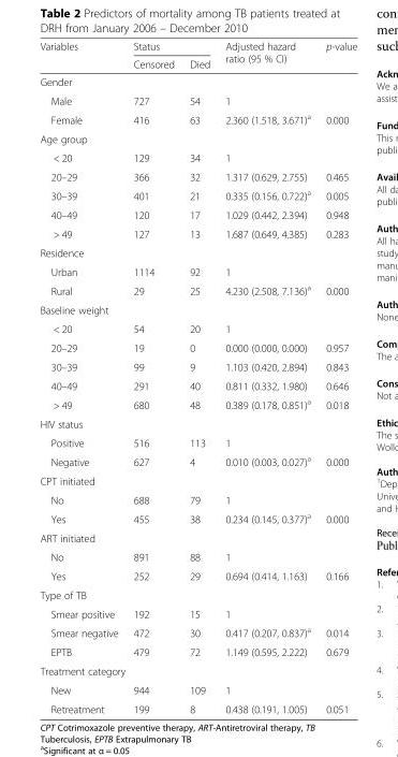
<table><thead><tr><td rowspan="2">Variables</td><td colspan="2">Status</td><td rowspan="2">Adjusted hazard ratio (95 % CI)</td><td rowspan="2">p-value</td></tr><tr><td>Censored</td><td>Died</td></tr></thead><tbody><tr><td colspan="5">Gender</td></tr><tr><td>Male</td><td>727</td><td>54</td><td>1</td><td></td></tr><tr><td>Female</td><td>416</td><td>63</td><td>2.360 (1.518, 3.671)<sup>a</sup></td><td>0.000</td></tr><tr><td colspan="5">Age group</td></tr><tr><td>&lt; 20</td><td>129</td><td>34</td><td>1</td><td></td></tr><tr><td>20–29</td><td>366</td><td>32</td><td>1.317 (0.629, 2.755)</td><td>0.465</td></tr><tr><td>30–39</td><td>401</td><td>21</td><td>0.335 (0.156, 0.722)<sup>a</sup></td><td>0.005</td></tr><tr><td>40–49</td><td>120</td><td>17</td><td>1.029 (0.442, 2.394)</td><td>0.948</td></tr><tr><td>&gt; 49</td><td>127</td><td>13</td><td>1.687 (0.649, 4.385)</td><td>0.283</td></tr><tr><td colspan="5">Residence</td></tr><tr><td>Urban</td><td>1114</td><td>92</td><td>1</td><td></td></tr><tr><td>Rural</td><td>29</td><td>25</td><td>4.230 (2.508, 7.136)<sup>a</sup></td><td>0.000</td></tr><tr><td colspan="5">Baseline weight</td></tr><tr><td>&lt; 20</td><td>54</td><td>20</td><td>1</td><td></td></tr><tr><td>20–29</td><td>19</td><td>0</td><td>0.000 (0.000, 0.000)</td><td>0.957</td></tr><tr><td>30–39</td><td>99</td><td>9</td><td>1.103 (0.420, 2.894)</td><td>0.843</td></tr><tr><td>40–49</td><td>291</td><td>40</td><td>0.811 (0.332, 1.980)</td><td>0.646</td></tr><tr><td>&gt; 49</td><td>680</td><td>48</td><td>0.389 (0.178, 0.851)<sup>a</sup></td><td>0.018</td></tr><tr><td colspan="5">HIV status</td></tr><tr><td>Positive</td><td>516</td><td>113</td><td>1</td><td></td></tr><tr><td>Negative</td><td>627</td><td>4</td><td>0.010 (0.003, 0.027)<sup>a</sup></td><td>0.000</td></tr><tr><td colspan="5">CPT initiated</td></tr><tr><td>No</td><td>688</td><td>79</td><td>1</td><td></td></tr><tr><td>Yes</td><td>455</td><td>38</td><td>0.234 (0.145, 0.377)<sup>a</sup></td><td>0.000</td></tr><tr><td colspan="5">ART initiated</td></tr><tr><td>No</td><td>891</td><td>88</td><td>1</td><td></td></tr><tr><td>Yes</td><td>252</td><td>29</td><td>0.694 (0.414, 1.163)</td><td>0.166</td></tr><tr><td colspan="5">Type of TB</td></tr><tr><td>Smear positive</td><td>192</td><td>15</td><td>1</td><td></td></tr><tr><td>Smear negative</td><td>472</td><td>30</td><td>0.417 (0.207, 0.837)<sup>a</sup></td><td>0.014</td></tr><tr><td>EPTB</td><td>479</td><td>72</td><td>1.149 (0.595, 2.222)</td><td>0.679</td></tr><tr><td colspan="5">Treatment category</td></tr><tr><td>New</td><td>944</td><td>109</td><td>1</td><td></td></tr><tr><td>Retreatment</td><td>199</td><td>8</td><td>0.438 (0.191, 1.005)</td><td>0.051</td></tr></tbody></table>